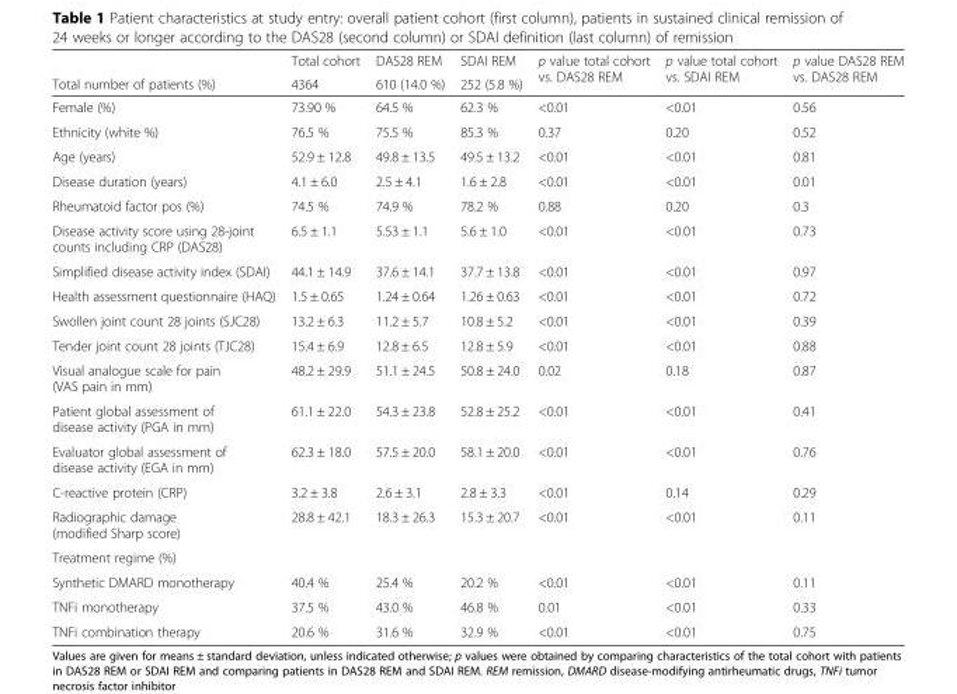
<table><thead><tr><td rowspan="2">Total number of patients (%)</td><td rowspan="2">Total cohort 4364</td><td rowspan="2">DAS28 REM 610 (14.0 %)</td><td rowspan="2">SDAI REM 252 (5.8 %)</td><td rowspan="2">p value total cohort vs. DAS28 REM</td><td rowspan="2">p value total cohort vs. SDAI REM</td><td rowspan="2">p value DAS28 REM vs. DAS28 REM</td></tr><tr></tr></thead><tbody><tr><td>Female (%)</td><td>73.90 %</td><td>64.5 %</td><td>62.3 %</td><td>&lt;0.01</td><td>&lt;0.01</td><td>0.56</td></tr><tr><td>Ethnicity (white %)</td><td>76.5 %</td><td>75.5 %</td><td>85.3 %</td><td>0.37</td><td>0.20</td><td>0.52</td></tr><tr><td>Age (years)</td><td>52.9 ± 12.8</td><td>49.8 ± 13.5</td><td>49.5 ± 13.2</td><td>&lt;0.01</td><td>&lt;0.01</td><td>0.81</td></tr><tr><td>Disease duration (years)</td><td>4.1 ± 6.0</td><td>2.5 ± 4.1</td><td>1.6 ± 2.8</td><td>&lt;0.01</td><td>&lt;0.01</td><td>0.01</td></tr><tr><td>Rheumatoid factor pos (%)</td><td>74.5 %</td><td>74.9 %</td><td>78.2 %</td><td>0.88</td><td>0.20</td><td>0.3</td></tr><tr><td>Disease activity score using 28-joint counts including CRP (DAS28)</td><td>6.5 ± 1.1</td><td>5.53 ± 1.1</td><td>5.6 ± 1.0</td><td>&lt;0.01</td><td>&lt;0.01</td><td>0.73</td></tr><tr><td>Simplified disease activity index (SDAI)</td><td>44.1 ± 14.9</td><td>37.6 ± 14.1</td><td>37.7 ± 13.8</td><td>&lt;0.01</td><td>&lt;0.01</td><td>0.97</td></tr><tr><td>Health assessment questionnaire (HAQ)</td><td>1.5 ± 0.65</td><td>1.24 ± 0.64</td><td>1.26 ± 0.63</td><td>&lt;0.01</td><td>&lt;0.01</td><td>0.72</td></tr><tr><td>Swollen joint count 28 joints (SJC28)</td><td>13.2 ± 6.3</td><td>11.2 ± 5.7</td><td>10.8 ± 5.2</td><td>&lt;0.01</td><td>&lt;0.01</td><td>0.39</td></tr><tr><td>Tender joint count 28 joints (TJC28)</td><td>15.4 ± 6.9</td><td>12.8 ± 6.5</td><td>12.8 ± 5.9</td><td>&lt;0.01</td><td>&lt;0.01</td><td>0.88</td></tr><tr><td>Visual analogue scale for pain (VAS pain in mm)</td><td>48.2 ± 29.9</td><td>51.1 ± 24.5</td><td>50.8 ± 24.0</td><td>0.02</td><td>0.18</td><td>0.87</td></tr><tr><td>Patient global assessment of disease activity (PGA in mm)</td><td>61.1 ± 22.0</td><td>54.3 ± 23.8</td><td>52.8 ± 25.2</td><td>&lt;0.01</td><td>&lt;0.01</td><td>0.41</td></tr><tr><td>Evaluator global assessment of disease activity (EGA in mm)</td><td>62.3 ± 18.0</td><td>57.5 ± 20.0</td><td>58.1 ± 20.0</td><td>&lt;0.01</td><td>&lt;0.01</td><td>0.76</td></tr><tr><td>C-reactive protein (CRP)</td><td>3.2 ± 3.8</td><td>2.6 ± 3.1</td><td>2.8 ± 3.3</td><td>&lt;0.01</td><td>0.14</td><td>0.29</td></tr><tr><td>Radiographic damage (modified Sharp score)</td><td>28.8 ± 42.1</td><td>18.3 ± 26.3</td><td>15.3 ± 20.7</td><td>&lt;0.01</td><td>&lt;0.01</td><td>0.11</td></tr><tr><td colspan="7">Treatment regime (%)</td></tr><tr><td>Synthetic DMARD monotherapy</td><td>40.4 %</td><td>25.4 %</td><td>20.2 %</td><td>&lt;0.01</td><td>&lt;0.01</td><td>0.11</td></tr><tr><td>TNFi monotherapy</td><td>37.5 %</td><td>43.0 %</td><td>46.8 %</td><td>0.01</td><td>&lt;0.01</td><td>0.33</td></tr><tr><td>TNFi combination therapy</td><td>20.6 %</td><td>31.6 %</td><td>32.9 %</td><td>&lt;0.01</td><td>&lt;0.01</td><td>0.75</td></tr></tbody></table>